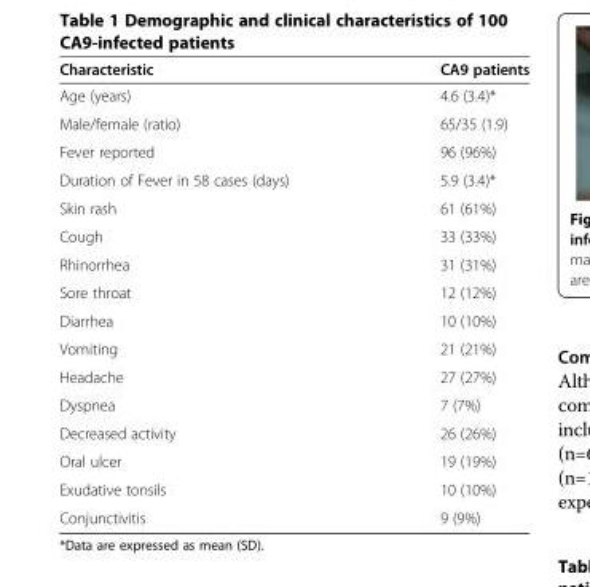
<table><thead><tr><td>Characteristic</td><td>CA9 patients</td></tr></thead><tbody><tr><td>Age (years)</td><td>4.6 (3.4)*</td></tr><tr><td>Male/female (ratio)</td><td>65/35 (1.9)</td></tr><tr><td>Fever reported</td><td>96 (96%)</td></tr><tr><td>Duration of Fever in 58 cases (days)</td><td>5.9 (3.4)*</td></tr><tr><td>Skin rash</td><td>61 (61%)</td></tr><tr><td>Cough</td><td>33 (33%)</td></tr><tr><td>Rhinorrhea</td><td>31 (31%)</td></tr><tr><td>Sore throat</td><td>12 (12%)</td></tr><tr><td>Diarrhea</td><td>10 (10%)</td></tr><tr><td>Vomiting</td><td>21 (21%)</td></tr><tr><td>Headache</td><td>27 (27%)</td></tr><tr><td>Dyspnea</td><td>7 (7%)</td></tr><tr><td>Decreased activity</td><td>26 (26%)</td></tr><tr><td>Oral ulcer</td><td>19 (19%)</td></tr><tr><td>Exudative tonsils</td><td>10 (10%)</td></tr><tr><td>Conjunctivitis</td><td>9 (9%)</td></tr></tbody></table>